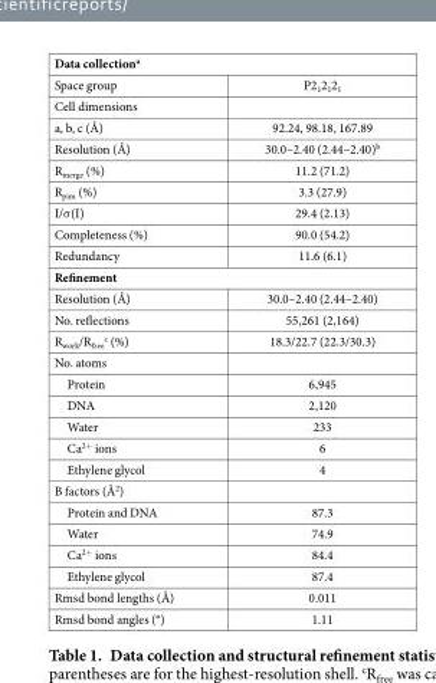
<table><thead><tr><td colspan="2">Data collection<sup>a</sup></td></tr><tr><td>Space group</td><td>P2<sub>1</sub>2<sub>1</sub>2<sub>1</sub></td></tr></thead><tbody><tr><td colspan="2">Cell dimensions</td></tr><tr><td>a, b, c (Å)</td><td>92.24, 98.18, 167.89</td></tr><tr><td>Resolution (Å)</td><td>30.0–2.40 (2.44–2.40)<sup>b</sup></td></tr><tr><td>R<sub>merge</sub> (%)</td><td>11.2 (71.2)</td></tr><tr><td>R<sub>pim</sub> (%)</td><td>3.3 (27.9)</td></tr><tr><td>I/σ (I)</td><td>29.4 (2.13)</td></tr><tr><td>Completeness (%)</td><td>90.0 (54.2)</td></tr><tr><td>Redundancy</td><td>11.6 (6.1)</td></tr><tr><td colspan="2">Refinement</td></tr><tr><td>Resolution (Å)</td><td>30.0–2.40 (2.44–2.40)</td></tr><tr><td>No. reflections</td><td>55,261 (2,164)</td></tr><tr><td>R<sub>work</sub>/R<sub>free</sub> <sup>c</sup> (%)</td><td>18.3/22.7 (22.3/30.3)</td></tr><tr><td colspan="2">No. atoms</td></tr><tr><td>Protein</td><td>6,945</td></tr><tr><td>DNA</td><td>2,120</td></tr><tr><td>Water</td><td>233</td></tr><tr><td>Ca<sup>2+</sup> ions</td><td>6</td></tr><tr><td>Ethylene glycol</td><td>4</td></tr><tr><td colspan="2">B factors (Å<sup>2</sup>)</td></tr><tr><td>Protein and DNA</td><td>87.3</td></tr><tr><td>Water</td><td>74.9</td></tr><tr><td>Ca<sup>2+</sup> ions</td><td>84.4</td></tr><tr><td>Ethylene glycol</td><td>87.4</td></tr><tr><td>Rmsd bond lengths (Å)</td><td>0.011</td></tr><tr><td>Rmsd bond angles (°)</td><td>1.11</td></tr></tbody></table>